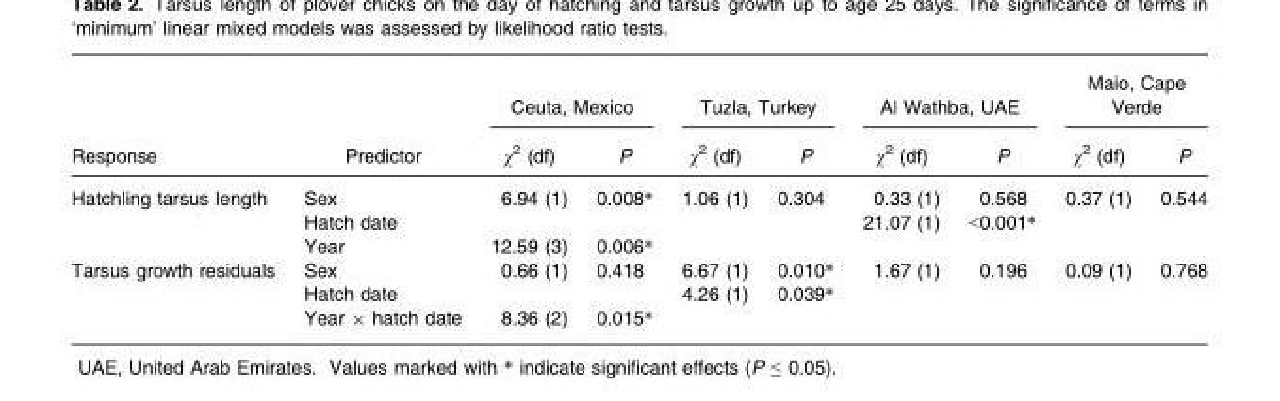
<table><thead><tr><td rowspan="2">Response</td><td rowspan="2">Predictor</td><td colspan="2">Ceuta, Mexico</td><td colspan="2">Tuzla, Turkey</td><td colspan="2">Al Wathba, UAE</td><td colspan="2">Maio, Cape Verde</td></tr><tr><td>χ<sup>2</sup> (df)</td><td>P</td><td>χ<sup>2</sup> (df)</td><td>P</td><td>χ<sup>2</sup> (df)</td><td>P</td><td>χ<sup>2</sup> (df)</td><td>P</td></tr></thead><tbody><tr><td rowspan="3">Hatchling tarsus length</td><td>Sex</td><td>6.94 (1)</td><td>0.008*</td><td>1.06 (1)</td><td>0.304</td><td>0.33 (1)</td><td>0.568</td><td>0.37 (1)</td><td>0.544</td></tr><tr><td>Hatch date</td><td></td><td></td><td></td><td></td><td>21.07 (1)</td><td>&lt;0.001*</td><td></td><td></td></tr><tr><td>Year</td><td>12.59 (3)</td><td>0.006*</td><td></td><td></td><td></td><td></td><td></td><td></td></tr><tr><td rowspan="3">Tarsus growth residuals</td><td>Sex</td><td>0.66 (1)</td><td>0.418</td><td>6.67 (1)</td><td>0.010*</td><td>1.67 (1)</td><td>0.196</td><td>0.09 (1)</td><td>0.768</td></tr><tr><td>Hatch date</td><td></td><td></td><td>4.26 (1)</td><td>0.039*</td><td></td><td></td><td></td><td></td></tr><tr><td>Year × hatch date</td><td>8.36 (2)</td><td>0.015*</td><td></td><td></td><td></td><td></td><td></td><td></td></tr></tbody></table>